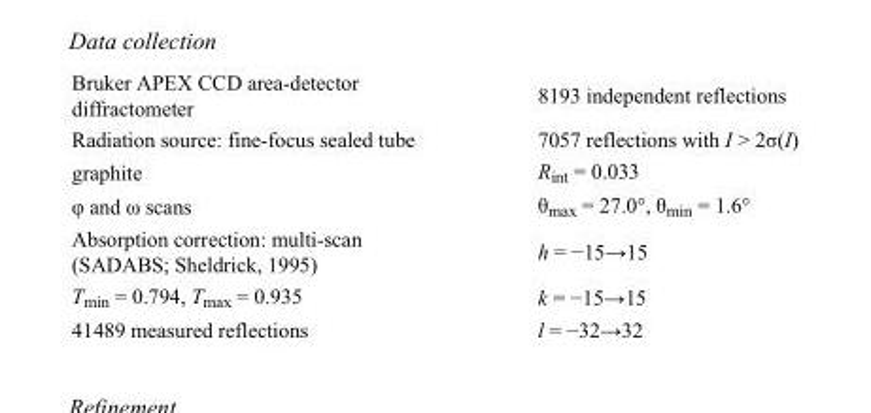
<table><tbody><tr><td>Bruker APEX CCD area-detector diffractometer</td><td>8193 independent reflections</td></tr><tr><td>Radiation source: fine-focus sealed tube</td><td>7057 reflections with I &gt; 2σ(I)</td></tr><tr><td>graphite</td><td>R<sub>int</sub> = 0.033</td></tr><tr><td>φ and ω scans</td><td>θ<sub>max</sub> = 27.0°, θ<sub>min</sub> = 1.6°</td></tr><tr><td>Absorption correction: multi-scan (SADABS; Sheldrick, 1995)</td><td>h = −15→15</td></tr><tr><td>T<sub>min</sub> = 0.794, T<sub>max</sub> = 0.935</td><td>k = −15→15</td></tr><tr><td>41489 measured reflections</td><td>l = −32→32</td></tr></tbody></table>